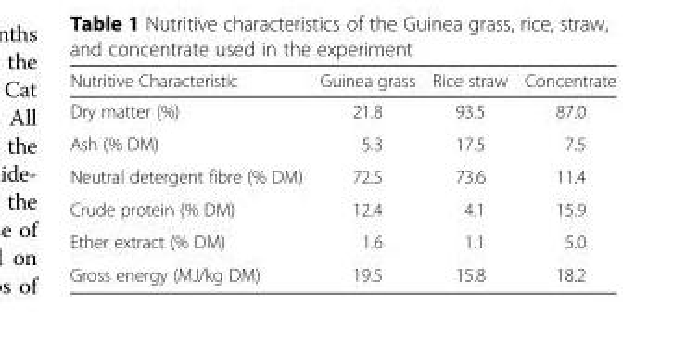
<table><thead><tr><td>Nutritive Characteristic</td><td>Guinea grass</td><td>Rice straw</td><td>Concentrate</td></tr></thead><tbody><tr><td>Dry matter (%)</td><td>21.8</td><td>93.5</td><td>87.0</td></tr><tr><td>Ash (% DM)</td><td>5.3</td><td>17.5</td><td>7.5</td></tr><tr><td>Neutral detergent fibre (% DM)</td><td>72.5</td><td>73.6</td><td>11.4</td></tr><tr><td>Crude protein (% DM)</td><td>12.4</td><td>4.1</td><td>15.9</td></tr><tr><td>Ether extract (% DM)</td><td>1.6</td><td>1.1</td><td>5.0</td></tr><tr><td>Gross energy (MJ/kg DM)</td><td>19.5</td><td>15.8</td><td>18.2</td></tr></tbody></table>